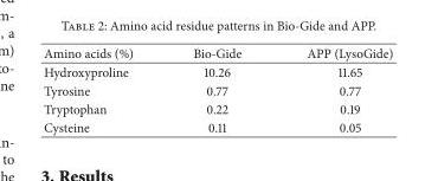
<table><thead><tr><td>Amino acids (%)</td><td>Bio-Gide</td><td>APP (LysoGide)</td></tr></thead><tbody><tr><td>Hydroxyproline</td><td>10.26</td><td>11.65</td></tr><tr><td>Tyrosine</td><td>0.77</td><td>0.77</td></tr><tr><td>Tryptophan</td><td>0.22</td><td>0.19</td></tr><tr><td>Cysteine</td><td>0.11</td><td>0.05</td></tr></tbody></table>